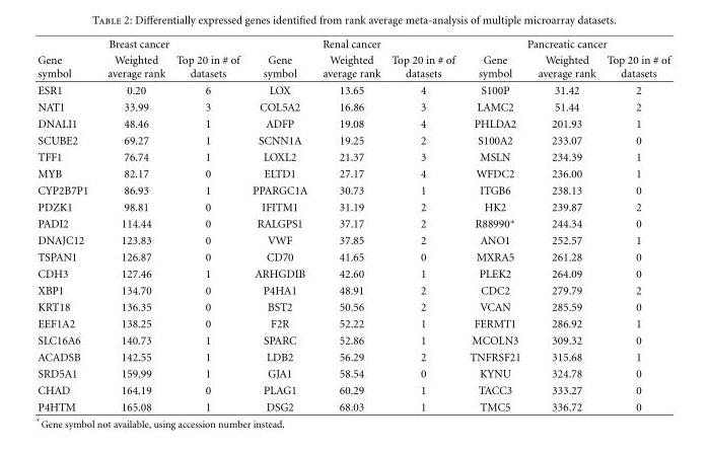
<table><thead><tr><td colspan="3">Breast cancer</td><td colspan="3">Renal cancer</td><td colspan="3">Pancreatic cancer</td></tr><tr><td>Gene symbol</td><td>Weighted average rank</td><td>Top 20 in # of datasets</td><td>Gene symbol</td><td>Weighted average rank</td><td>Top 20 in # of datasets</td><td>Gene symbol</td><td>Weighted average rank</td><td>Top 20 in # of datasets</td></tr></thead><tbody><tr><td>ESR1</td><td>0.20</td><td>6</td><td>LOX</td><td>13.65</td><td>4</td><td>S100P</td><td>31.42</td><td>2</td></tr><tr><td>NAT1</td><td>33.99</td><td>3</td><td>COL5A2</td><td>16.86</td><td>3</td><td>LAMC2</td><td>51.44</td><td>2</td></tr><tr><td>DNALI1</td><td>48.46</td><td>1</td><td>ADFP</td><td>19.08</td><td>4</td><td>PHLDA2</td><td>201.93</td><td>1</td></tr><tr><td>SCUBE2</td><td>69.27</td><td>1</td><td>SCNN1A</td><td>19.25</td><td>2</td><td>S100A2</td><td>233.07</td><td>0</td></tr><tr><td>TFF1</td><td>76.74</td><td>1</td><td>LOXL2</td><td>21.37</td><td>3</td><td>MSLN</td><td>234.39</td><td>1</td></tr><tr><td>MYB</td><td>82.17</td><td>0</td><td>ELTD1</td><td>27.17</td><td>4</td><td>WFDC2</td><td>236.00</td><td>1</td></tr><tr><td>CYP2B7P1</td><td>86.93</td><td>1</td><td>PPARGC1A</td><td>30.73</td><td>1</td><td>ITGB6</td><td>238.13</td><td>0</td></tr><tr><td>PDZK1</td><td>98.81</td><td>0</td><td>IFITM1</td><td>31.19</td><td>2</td><td>HK2</td><td>239.87</td><td>2</td></tr><tr><td>PADI2</td><td>114.44</td><td>0</td><td>RALGPS1</td><td>37.17</td><td>2</td><td>R88990∗</td><td>244.34</td><td>0</td></tr><tr><td>DNAJC12</td><td>123.83</td><td>0</td><td>VWF</td><td>37.85</td><td>2</td><td>ANO1</td><td>252.57</td><td>1</td></tr><tr><td>TSPAN1</td><td>126.87</td><td>0</td><td>CD70</td><td>41.65</td><td>0</td><td>MXRA5</td><td>261.28</td><td>0</td></tr><tr><td>CDH3</td><td>127.46</td><td>1</td><td>ARHGDIB</td><td>42.60</td><td>1</td><td>PLEK2</td><td>264.09</td><td>0</td></tr><tr><td>XBP1</td><td>134.70</td><td>0</td><td>P4HA1</td><td>48.91</td><td>2</td><td>CDC2</td><td>279.79</td><td>2</td></tr><tr><td>KRT18</td><td>136.35</td><td>0</td><td>BST2</td><td>50.56</td><td>2</td><td>VCAN</td><td>285.59</td><td>0</td></tr><tr><td>EEF1A2</td><td>138.25</td><td>0</td><td>F2R</td><td>52.22</td><td>1</td><td>FERMT1</td><td>286.92</td><td>1</td></tr><tr><td>SLC16A6</td><td>140.73</td><td>1</td><td>SPARC</td><td>52.86</td><td>1</td><td>MCOLN3</td><td>309.32</td><td>0</td></tr><tr><td>ACADSB</td><td>142.55</td><td>1</td><td>LDB2</td><td>56.29</td><td>2</td><td>TNFRSF21</td><td>315.68</td><td>1</td></tr><tr><td>SRD5A1</td><td>159.99</td><td>1</td><td>GJA1</td><td>58.54</td><td>0</td><td>KYNU</td><td>324.78</td><td>0</td></tr><tr><td>CHAD</td><td>164.19</td><td>0</td><td>PLAG1</td><td>60.29</td><td>1</td><td>TACC3</td><td>333.27</td><td>0</td></tr><tr><td>P4HTM</td><td>165.08</td><td>1</td><td>DSG2</td><td>68.03</td><td>1</td><td>TMC5</td><td>336.72</td><td>0</td></tr></tbody></table>